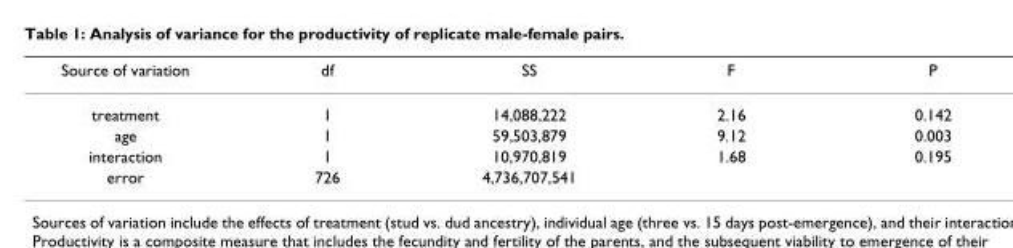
<table><thead><tr><td>Source of variation</td><td>df</td><td>SS</td><td>F</td><td>P</td></tr></thead><tbody><tr><td>treatment</td><td>1</td><td>14,088,222</td><td>2.16</td><td>0.142</td></tr><tr><td>age</td><td>1</td><td>59,503,879</td><td>9.12</td><td>0.003</td></tr><tr><td>interaction</td><td>1</td><td>10,970,819</td><td>1.68</td><td>0.195</td></tr><tr><td>error</td><td>726</td><td>4,736,707,541</td><td></td><td></td></tr></tbody></table>